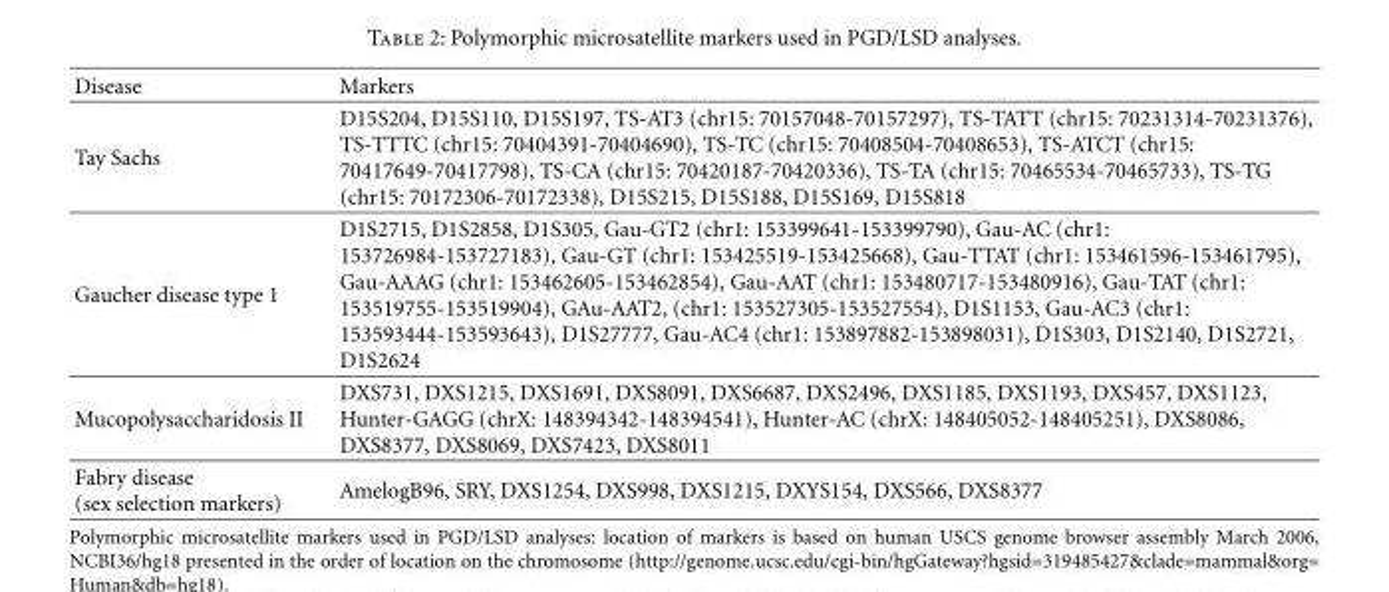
<table><thead><tr><td>Disease</td><td>Markers</td></tr></thead><tbody><tr><td>Tay Sachs</td><td>D15S204, D15S110, D15S197, TS-AT3 (chr15: 70157048-70157297), TS-TATT (chr15: 70231314-70231376), TS-TTTC (chr15: 70404391-70404690), TS-TC (chr15: 70408504-70408653), TS-ATCT (chr15: 70417649-70417798), TS-CA (chr15: 70420187-70420336), TS-TA (chr15: 70465534-70465733), TS-TG (chr15: 70172306-70172338), D15S215, D15S188, D15S169, D15S818</td></tr><tr><td>Gaucher disease type 1</td><td>D1S2715, D1S2858, D1S305, Gau-GT2 (chr1: 153399641-153399790), Gau-AC (chr1: 153726984-153727183), Gau-GT (chr1: 153425519-153425668), Gau-TTAT (chr1: 153461596-153461795), Gau-AAAG (chr1: 153462605-153462854), Gau-AAT (chr1: 153480717-153480916), Gau-TAT (chr1: 153519755-153519904), GAu-AAT2, (chr1: 153527305-153527554), D1S1153, Gau-AC3 (chr1: 153593444-153593643), D1S27777, Gau-AC4 (chr1: 153897882-153898031), D1S303, D1S2140, D1S2721, D1S2624</td></tr><tr><td>Mucopolysaccharidosis II</td><td>DXS731, DXS1215, DXS1691, DXS8091, DXS6687, DXS2496, DXS1185, DXS1193, DXS457, DXS1123, Hunter-GAGG (chrX: 148394342-148394541), Hunter-AC (chrX: 148405052-148405251), DXS8086, DXS8377, DXS8069, DXS7423, DXS8011</td></tr><tr><td>Fabry disease (sex selection markers)</td><td>AmelogB96, SRY, DXS1254, DXS998, DXS1215, DXYS154, DXS566, DXS8377</td></tr></tbody></table>